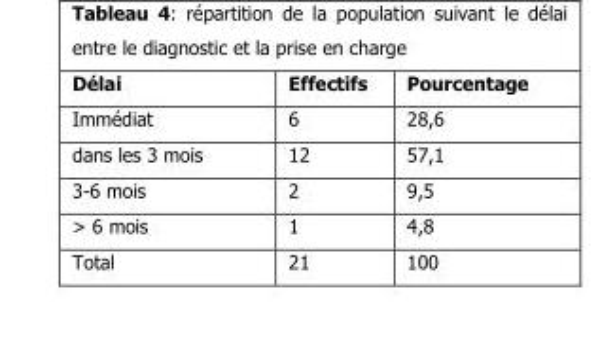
<table><thead><tr><td>Délai</td><td>Effectifs</td><td>Pourcentage</td></tr></thead><tbody><tr><td>Immédiat</td><td>6</td><td>28,6</td></tr><tr><td>dans les 3 mois</td><td>12</td><td>57,1</td></tr><tr><td>3-6 mois</td><td>2</td><td>9,5</td></tr><tr><td>&gt; 6 mois</td><td>1</td><td>4,8</td></tr><tr><td>Total</td><td>21</td><td>100</td></tr></tbody></table>